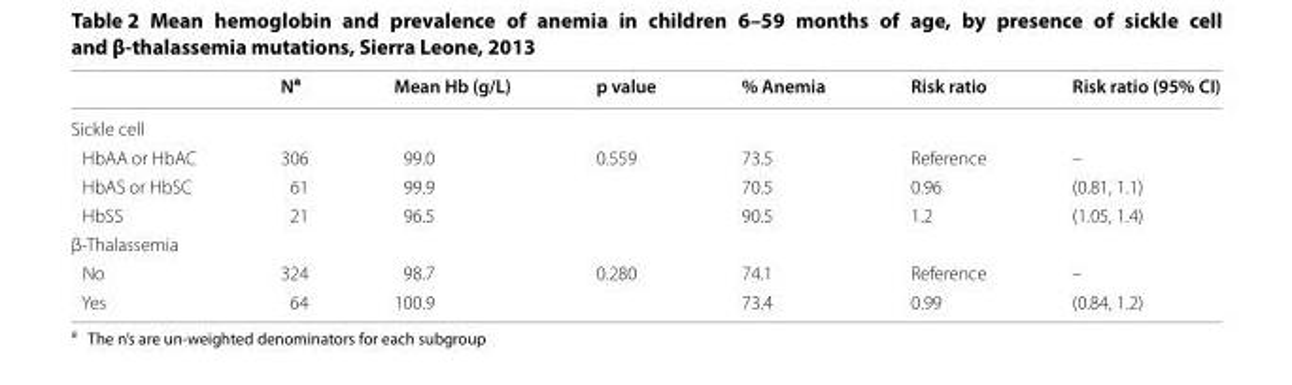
<table><thead><tr><td></td><td>N<sup>a</sup></td><td>Mean Hb (g/L)</td><td>p value</td><td>% Anemia</td><td>Risk ratio</td><td>Risk ratio (95% CI)</td></tr></thead><tbody><tr><td colspan="7">Sickle cell</td></tr><tr><td>HbAA or HbAC</td><td>306</td><td>99.0</td><td>0.559</td><td>73.5</td><td>Reference</td><td>–</td></tr><tr><td>HbAS or HbSC</td><td>61</td><td>99.9</td><td></td><td>70.5</td><td>0.96</td><td>(0.81, 1.1)</td></tr><tr><td>HbSS</td><td>21</td><td>96.5</td><td></td><td>90.5</td><td>1.2</td><td>(1.05, 1.4)</td></tr><tr><td colspan="7">β-Thalassemia</td></tr><tr><td>No</td><td>324</td><td>98.7</td><td>0.280</td><td>74.1</td><td>Reference</td><td>–</td></tr><tr><td>Yes</td><td>64</td><td>100.9</td><td></td><td>73.4</td><td>0.99</td><td>(0.84, 1.2)</td></tr></tbody></table>